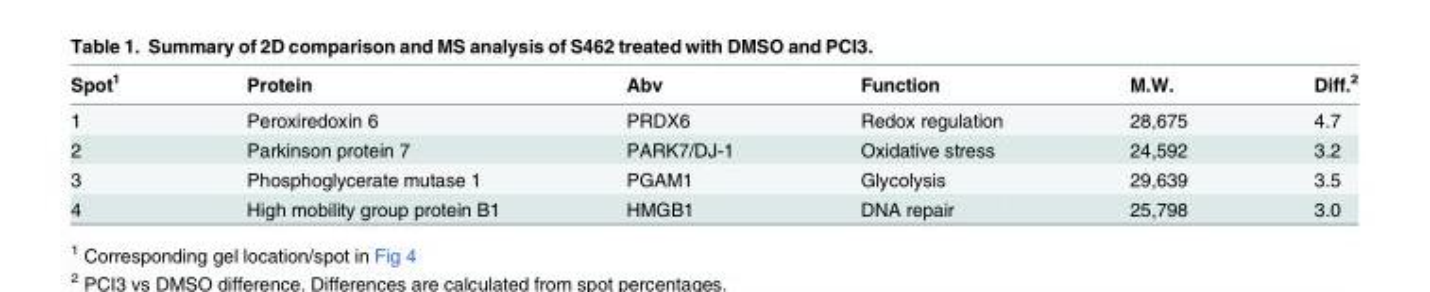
<table><thead><tr><td>Spot<sup>1</sup></td><td>Protein</td><td>Abv</td><td>Function</td><td>M.W.</td><td>Diff.<sup>2</sup></td></tr></thead><tbody><tr><td>1</td><td>Peroxiredoxin 6</td><td>PRDX6</td><td>Redox regulation</td><td>28,675</td><td>4.7</td></tr><tr><td>2</td><td>Parkinson protein 7</td><td>PARK7/DJ-1</td><td>Oxidative stress</td><td>24,592</td><td>3.2</td></tr><tr><td>3</td><td>Phosphoglycerate mutase 1</td><td>PGAM1</td><td>Glycolysis</td><td>29,639</td><td>3.5</td></tr><tr><td>4</td><td>High mobility group protein B1</td><td>HMGB1</td><td>DNA repair</td><td>25,798</td><td>3.0</td></tr></tbody></table>